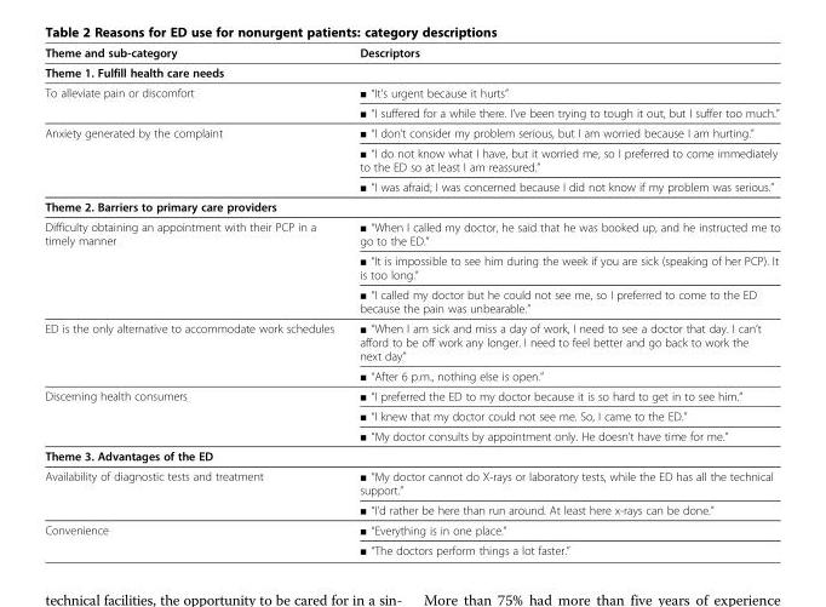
<table><thead><tr><td>Theme and sub-category</td><td>Descriptors</td></tr></thead><tbody><tr><td colspan="2">Theme 1. Fulfill health care needs</td></tr><tr><td rowspan="2">To alleviate pain or discomfort</td><td>▪ “It’s urgent because it hurts”</td></tr><tr><td>▪ “I suffered for a while there. I’ve been trying to tough it out, but I suffer too much.”</td></tr><tr><td rowspan="3">Anxiety generated by the complaint</td><td>▪ “I don’t consider my problem serious, but I am worried because I am hurting.”</td></tr><tr><td>▪ “I do not know what I have, but it worried me, so I preferred to come immediately to the ED so at least I am reassured.”</td></tr><tr><td>▪ “I was afraid; I was concerned because I did not know if my problem was serious.”</td></tr><tr><td colspan="2">Theme 2. Barriers to primary care providers</td></tr><tr><td rowspan="3">Difficulty obtaining an appointment with their PCP in a timely manner</td><td>▪ “When I called my doctor, he said that he was booked up, and he instructed me to go to the ED.”</td></tr><tr><td>▪ “It is impossible to see him during the week if you are sick (speaking of her PCP). It is too long.”</td></tr><tr><td>▪ “I called my doctor but he could not see me, so I preferred to come to the ED because the pain was unbearable.”</td></tr><tr><td rowspan="2">ED is the only alternative to accommodate work schedules</td><td>▪ “When I am sick and miss a day of work, I need to see a doctor that day. I can’t afford to be off work any longer. I need to feel better and go back to work the next day”</td></tr><tr><td>▪ “After 6 p.m., nothing else is open.”</td></tr><tr><td rowspan="3">Discerning health consumers</td><td>▪ “I preferred the ED to my doctor because it is so hard to get in to see him.”</td></tr><tr><td>▪ “I knew that my doctor could not see me. So, I came to the ED.”</td></tr><tr><td>▪ “My doctor consults by appointment only. He doesn’t have time for me.”</td></tr><tr><td colspan="2">Theme 3. Advantages of the ED</td></tr><tr><td rowspan="2">Availability of diagnostic tests and treatment</td><td>▪ “My doctor cannot do X-rays or laboratory tests, while the ED has all the technical support.”</td></tr><tr><td>▪ “I&#x27;d rather be here than run around. At least here x-rays can be done.”</td></tr><tr><td rowspan="2">Convenience</td><td>▪ “Everything is in one place.”</td></tr><tr><td>▪ “The doctors perform things a lot faster.”</td></tr></tbody></table>